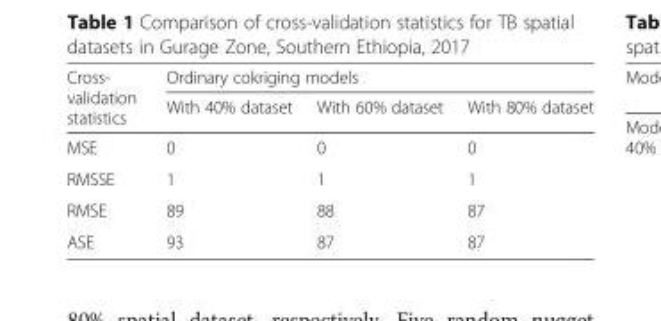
<table><thead><tr><td rowspan="2">Cross- validation statistics</td><td colspan="3">Ordinary cokriging models</td></tr><tr><td>With 40% dataset</td><td>With 60% dataset</td><td>With 80% dataset</td></tr></thead><tbody><tr><td>MSE</td><td>0</td><td>0</td><td>0</td></tr><tr><td>RMSSE</td><td>1</td><td>1</td><td>1</td></tr><tr><td>RMSE</td><td>89</td><td>88</td><td>87</td></tr><tr><td>ASE</td><td>93</td><td>87</td><td>87</td></tr></tbody></table>